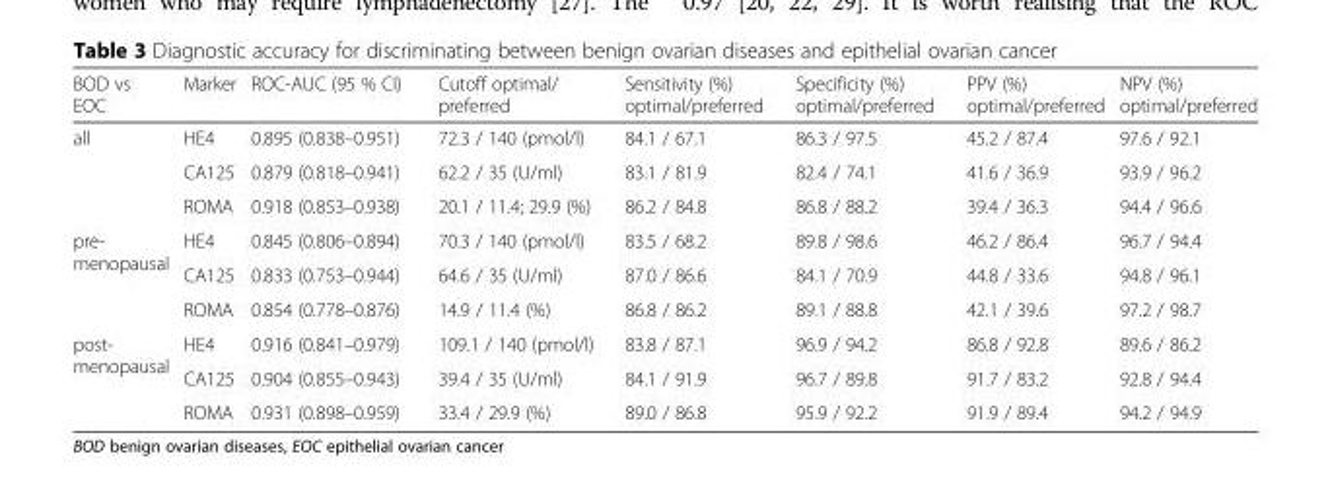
<table><thead><tr><td>BOD vs EOC</td><td>Marker</td><td>ROC-AUC (95 % CI)</td><td>Cutoff optimal/ preferred</td><td>Sensitivity (%) optimal/preferred</td><td>Specificity (%) optimal/preferred</td><td>PPV (%) optimal/preferred</td><td>NPV (%) optimal/preferred</td></tr></thead><tbody><tr><td rowspan="3">all</td><td>HE4</td><td>0.895 (0.838–0.951)</td><td>72.3 / 140 (pmol/l)</td><td>84.1 / 67.1</td><td>86.3 / 97.5</td><td>45.2 / 87.4</td><td>97.6 / 92.1</td></tr><tr><td>CA125</td><td>0.879 (0.818–0.941)</td><td>62.2 / 35 (U/ml)</td><td>83.1 / 81.9</td><td>82.4 / 74.1</td><td>41.6 / 36.9</td><td>93.9 / 96.2</td></tr><tr><td>ROMA</td><td>0.918 (0.853–0.938)</td><td>20.1 / 11.4; 29.9 (%)</td><td>86.2 / 84.8</td><td>86.8 / 88.2</td><td>39.4 / 36.3</td><td>94.4 / 96.6</td></tr><tr><td rowspan="3">pre- menopausal</td><td>HE4</td><td>0.845 (0.806–0.894)</td><td>70.3 / 140 (pmol/l)</td><td>83.5 / 68.2</td><td>89.8 / 98.6</td><td>46.2 / 86.4</td><td>96.7 / 94.4</td></tr><tr><td>CA125</td><td>0.833 (0.753–0.944)</td><td>64.6 / 35 (U/ml)</td><td>87.0 / 86.6</td><td>84.1 / 70.9</td><td>44.8 / 33.6</td><td>94.8 / 96.1</td></tr><tr><td>ROMA</td><td>0.854 (0.778–0.876)</td><td>14.9 / 11.4 (%)</td><td>86.8 / 86.2</td><td>89.1 / 88.8</td><td>42.1 / 39.6</td><td>97.2 / 98.7</td></tr><tr><td rowspan="3">post- menopausal</td><td>HE4</td><td>0.916 (0.841–0.979)</td><td>109.1 / 140 (pmol/l)</td><td>83.8 / 87.1</td><td>96.9 / 94.2</td><td>86.8 / 92.8</td><td>89.6 / 86.2</td></tr><tr><td>CA125</td><td>0.904 (0.855–0.943)</td><td>39.4 / 35 (U/ml)</td><td>84.1 / 91.9</td><td>96.7 / 89.8</td><td>91.7 / 83.2</td><td>92.8 / 94.4</td></tr><tr><td>ROMA</td><td>0.931 (0.898–0.959)</td><td>33.4 / 29.9 (%)</td><td>89.0 / 86.8</td><td>95.9 / 92.2</td><td>91.9 / 89.4</td><td>94.2 / 94.9</td></tr></tbody></table>